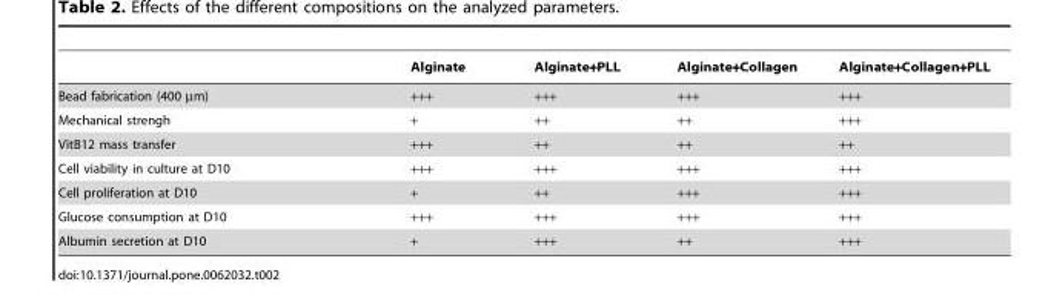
<table><thead><tr><td></td><td>Alginate</td><td>Alginate+PLL</td><td>Alginate+Collagen</td><td>Alginate+Collagen+PLL</td></tr></thead><tbody><tr><td>Bead fabrication (400 µm)</td><td>+++</td><td>+++</td><td>+++</td><td>+++</td></tr><tr><td>Mechanical strengh</td><td>+</td><td>++</td><td>++</td><td>+++</td></tr><tr><td>VitB12 mass transfer</td><td>+++</td><td>++</td><td>++</td><td>++</td></tr><tr><td>Cell viability in culture at D10</td><td>+++</td><td>+++</td><td>+++</td><td>+++</td></tr><tr><td>Cell proliferation at D10</td><td>+</td><td>++</td><td>+++</td><td>+++</td></tr><tr><td>Glucose consumption at D10</td><td>+++</td><td>+++</td><td>+++</td><td>+++</td></tr><tr><td>Albumin secretion at D10</td><td>+</td><td>+++</td><td>++</td><td>+++</td></tr></tbody></table>